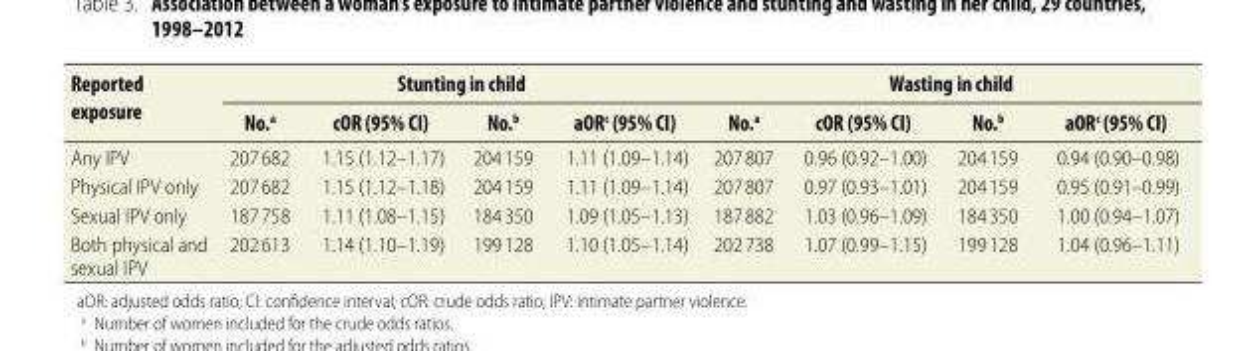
<table><thead><tr><td rowspan="2">Reported exposure</td><td colspan="4">Stunting in child</td><td colspan="4">Wasting in child</td></tr><tr><td>No.<sup>a</sup></td><td>cOR (95% CI)</td><td>No.<sup>b</sup></td><td>aOR<sup>c</sup> (95% CI)</td><td>No.<sup>a</sup></td><td>cOR (95% CI)</td><td>No.<sup>b</sup></td><td>aOR<sup>c</sup> (95% CI)</td></tr></thead><tbody><tr><td>Any IPV</td><td>207 682</td><td>1.15 (1.12–1.17)</td><td>204 159</td><td>1.11 (1.09–1.14)</td><td>207 807</td><td>0.96 (0.92–1.00)</td><td>204 159</td><td>0.94 (0.90–0.98)</td></tr><tr><td>Physical IPV only</td><td>207 682</td><td>1.15 (1.12–1.18)</td><td>204 159</td><td>1.11 (1.09–1.14)</td><td>207 807</td><td>0.97 (0.93–1.01)</td><td>204 159</td><td>0.95 (0.91–0.99)</td></tr><tr><td>Sexual IPV only</td><td>187 758</td><td>1.11 (1.08–1.15)</td><td>184 350</td><td>1.09 (1.05–1.13)</td><td>187 882</td><td>1.03 (0.96–1.09)</td><td>184 350</td><td>1.00 (0.94–1.07)</td></tr><tr><td>Both physical and sexual IPV</td><td>202 613</td><td>1.14 (1.10–1.19)</td><td>199 128</td><td>1.10 (1.05–1.14)</td><td>202 738</td><td>1.07 (0.99–1.15)</td><td>199 128</td><td>1.04 (0.96–1.11)</td></tr></tbody></table>